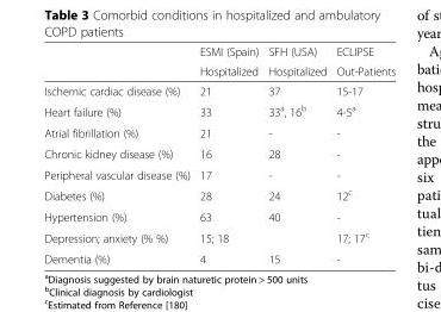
<table><thead><tr><td rowspan="2"></td><td rowspan="2">ESMI (Spain) Hospitalized</td><td rowspan="2">SFH (USA) Hospitalized</td><td rowspan="2">ECLIPSE Out-Patients</td></tr><tr></tr></thead><tbody><tr><td>Ischemic cardiac disease (%)</td><td>21</td><td>37</td><td>15-17</td></tr><tr><td>Heart failure (%)</td><td>33</td><td>33<sup>a</sup>, 16<sup>b</sup></td><td>4-5<sup>a</sup></td></tr><tr><td>Atrial fibrillation (%)</td><td>21</td><td>-</td><td>-</td></tr><tr><td>Chronic kidney disease (%)</td><td>16</td><td>28</td><td>-</td></tr><tr><td>Peripheral vascular disease (%)</td><td>17</td><td>-</td><td>-</td></tr><tr><td>Diabetes (%)</td><td>28</td><td>24</td><td>12<sup>c</sup></td></tr><tr><td>Hypertension (%)</td><td>63</td><td>40</td><td>-</td></tr><tr><td>Depression; anxiety (% %)</td><td>15; 18</td><td></td><td>17; 17<sup>c</sup></td></tr><tr><td>Dementia (%)</td><td>4</td><td>15</td><td>-</td></tr></tbody></table>